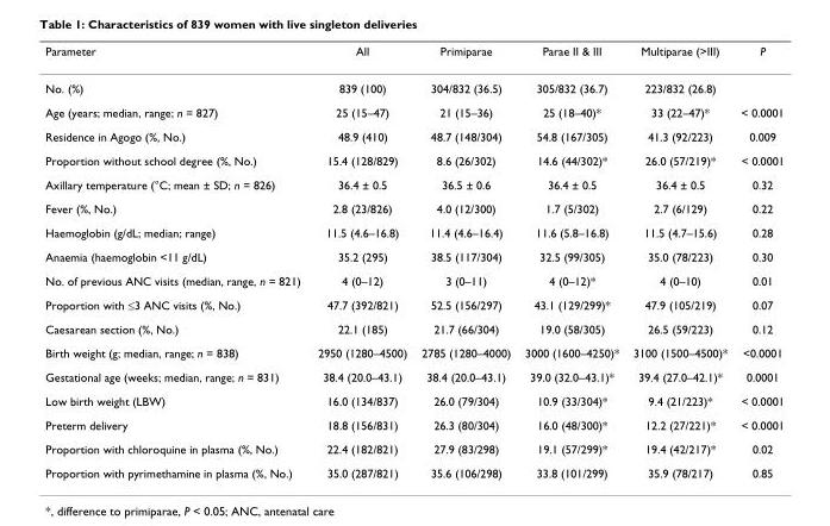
<table><thead><tr><td>Parameter</td><td>All</td><td>Primiparae</td><td>Parae II &amp; III</td><td>Multiparae (&gt;III)</td><td>P</td></tr></thead><tbody><tr><td>No. (%)</td><td>839 (100)</td><td>304/832 (36.5)</td><td>305/832 (36.7)</td><td>223/832 (26.8)</td><td></td></tr><tr><td>Age (years; median, range; n = 827)</td><td>25 (15–47)</td><td>21 (15–36)</td><td>25 (18–40)*</td><td>33 (22–47)*</td><td>&lt; 0.0001</td></tr><tr><td>Residence in Agogo (%, No.)</td><td>48.9 (410)</td><td>48.7 (148/304)</td><td>54.8 (167/305)</td><td>41.3 (92/223)</td><td>0.009</td></tr><tr><td>Proportion without school degree (%, No.)</td><td>15.4 (128/829)</td><td>8.6 (26/302)</td><td>14.6 (44/302)*</td><td>26.0 (57/219)*</td><td>&lt; 0.0001</td></tr><tr><td>Axillary temperature (°C; mean ± SD; n = 826)</td><td>36.4 ± 0.5</td><td>36.5 ± 0.6</td><td>36.4 ± 0.5</td><td>36.4 ± 0.5</td><td>0.32</td></tr><tr><td>Fever (%, No.)</td><td>2.8 (23/826)</td><td>4.0 (12/300)</td><td>1.7 (5/302)</td><td>2.7 (6/129)</td><td>0.22</td></tr><tr><td>Haemoglobin (g/dL; median; range)</td><td>11.5 (4.6–16.8)</td><td>11.4 (4.6–16.4)</td><td>11.6 (5.8–16.8)</td><td>11.5 (4.7–15.6)</td><td>0.28</td></tr><tr><td>Anaemia (haemoglobin &lt;11 g/dL)</td><td>35.2 (295)</td><td>38.5 (117/304)</td><td>32.5 (99/305)</td><td>35.0 (78/223)</td><td>0.30</td></tr><tr><td>No. of previous ANC visits (median, range, n = 821)</td><td>4 (0–12)</td><td>3 (0–11)</td><td>4 (0–12)*</td><td>4 (0–10)</td><td>0.01</td></tr><tr><td>Proportion with ≤3 ANC visits (%, No.)</td><td>47.7 (392/821)</td><td>52.5 (156/297)</td><td>43.1 (129/299)*</td><td>47.9 (105/219)</td><td>0.07</td></tr><tr><td>Caesarean section (%, No.)</td><td>22.1 (185)</td><td>21.7 (66/304)</td><td>19.0 (58/305)</td><td>26.5 (59/223)</td><td>0.12</td></tr><tr><td>Birth weight (g; median, range; n = 838)</td><td>2950 (1280–4500)</td><td>2785 (1280–4000)</td><td>3000 (1600–4250)*</td><td>3100 (1500–4500)*</td><td>&lt;0.0001</td></tr><tr><td>Gestational age (weeks; median, range; n = 831)</td><td>38.4 (20.0–43.1)</td><td>38.4 (20.0–43.1)</td><td>39.0 (32.0–43.1)*</td><td>39.4 (27.0–42.1)*</td><td>0.0001</td></tr><tr><td>Low birth weight (LBW)</td><td>16.0 (134/837)</td><td>26.0 (79/304)</td><td>10.9 (33/304)*</td><td>9.4 (21/223)*</td><td>&lt; 0.0001</td></tr><tr><td>Preterm delivery</td><td>18.8 (156/831)</td><td>26.3 (80/304)</td><td>16.0 (48/300)*</td><td>12.2 (27/221)*</td><td>&lt; 0.0001</td></tr><tr><td>Proportion with chloroquine in plasma (%, No.)</td><td>22.4 (182/821)</td><td>27.9 (83/298)</td><td>19.1 (57/299)*</td><td>19.4 (42/217)*</td><td>0.02</td></tr><tr><td>Proportion with pyrimethamine in plasma (%, No.)</td><td>35.0 (287/821)</td><td>35.6 (106/298)</td><td>33.8 (101/299)</td><td>35.9 (78/217)</td><td>0.85</td></tr></tbody></table>